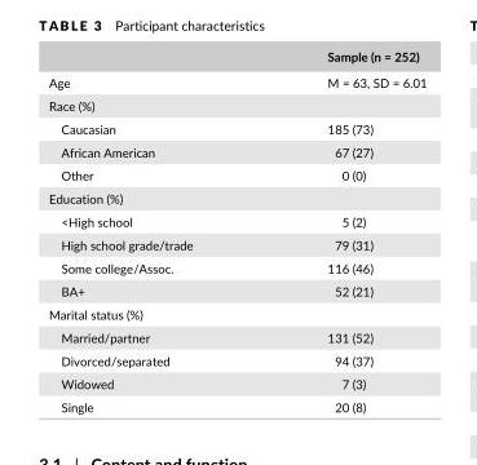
<table><thead><tr><td></td><td>Sample (n = 252)</td></tr></thead><tbody><tr><td>Age</td><td>M = 63, SD = 6.01</td></tr><tr><td colspan="2">Race (%)</td></tr><tr><td>Caucasian</td><td>185 (73)</td></tr><tr><td>African American</td><td>67 (27)</td></tr><tr><td>Other</td><td>0 (0)</td></tr><tr><td colspan="2">Education (%)</td></tr><tr><td>&lt;High school</td><td>5 (2)</td></tr><tr><td>High school grade/trade</td><td>79 (31)</td></tr><tr><td>Some college/Assoc.</td><td>116 (46)</td></tr><tr><td>BA+</td><td>52 (21)</td></tr><tr><td colspan="2">Marital status (%)</td></tr><tr><td>Married/partner</td><td>131 (52)</td></tr><tr><td>Divorced/separated</td><td>94 (37)</td></tr><tr><td>Widowed</td><td>7 (3)</td></tr><tr><td>Single</td><td>20 (8)</td></tr></tbody></table>